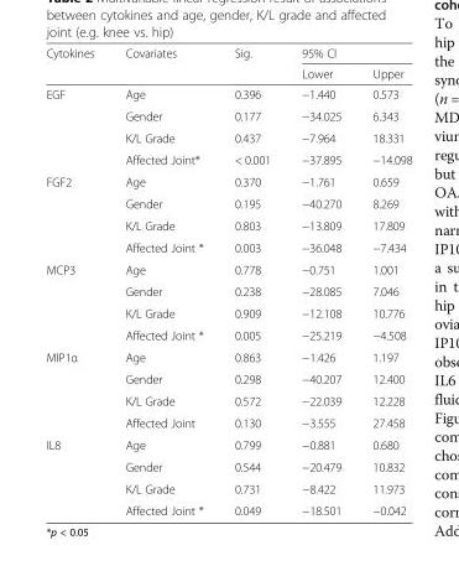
<table><thead><tr><td rowspan="2">Cytokines</td><td rowspan="2">Covariates</td><td rowspan="2">Sig.</td><td colspan="2">95% CI</td></tr><tr><td>Lower</td><td>Upper</td></tr></thead><tbody><tr><td rowspan="4">EGF</td><td>Age</td><td>0.396</td><td>−1.440</td><td>0.573</td></tr><tr><td>Gender</td><td>0.177</td><td>−34.025</td><td>6.343</td></tr><tr><td>K/L Grade</td><td>0.437</td><td>−7.964</td><td>18.331</td></tr><tr><td>Affected Joint*</td><td>&lt; 0.001</td><td>−37.895</td><td>−14.098</td></tr><tr><td rowspan="4">FGF2</td><td>Age</td><td>0.370</td><td>−1.761</td><td>0.659</td></tr><tr><td>Gender</td><td>0.195</td><td>−40.270</td><td>8.269</td></tr><tr><td>K/L Grade</td><td>0.803</td><td>−13.809</td><td>17.809</td></tr><tr><td>Affected Joint *</td><td>0.003</td><td>−36.048</td><td>−7.434</td></tr><tr><td rowspan="4">MCP3</td><td>Age</td><td>0.778</td><td>−0.751</td><td>1.001</td></tr><tr><td>Gender</td><td>0.238</td><td>−28.085</td><td>7.046</td></tr><tr><td>K/L Grade</td><td>0.909</td><td>−12.108</td><td>10.776</td></tr><tr><td>Affected Joint *</td><td>0.005</td><td>−25.219</td><td>−4.508</td></tr><tr><td rowspan="4">MIP1α</td><td>Age</td><td>0.863</td><td>−1.426</td><td>1.197</td></tr><tr><td>Gender</td><td>0.298</td><td>−40.207</td><td>12.400</td></tr><tr><td>K/L Grade</td><td>0.572</td><td>−22.039</td><td>12.228</td></tr><tr><td>Affected Joint</td><td>0.130</td><td>−3.555</td><td>27.458</td></tr><tr><td rowspan="4">IL8</td><td>Age</td><td>0.799</td><td>−0.881</td><td>0.680</td></tr><tr><td>Gender</td><td>0.544</td><td>−20.479</td><td>10.832</td></tr><tr><td>K/L Grade</td><td>0.731</td><td>−8.422</td><td>11.973</td></tr><tr><td>Affected Joint *</td><td>0.049</td><td>−18.501</td><td>−0.042</td></tr></tbody></table>